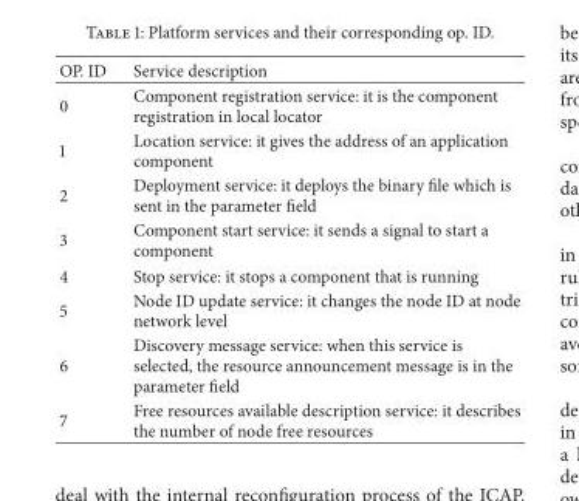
<table><thead><tr><td>OP. ID</td><td>Service description</td></tr></thead><tbody><tr><td>0</td><td>Component registration service: it is the component registration in local locator</td></tr><tr><td>1</td><td>Location service: it gives the address of an application component</td></tr><tr><td>2</td><td>Deployment service: it deploys the binary file which is sent in the parameter field</td></tr><tr><td>3</td><td>Component start service: it sends a signal to start a component</td></tr><tr><td>4</td><td>Stop service: it stops a component that is running</td></tr><tr><td>5</td><td>Node ID update service: it changes the node ID at node network level</td></tr><tr><td>6</td><td>Discovery message service: when this service is selected, the resource announcement message is in the parameter field</td></tr><tr><td>7</td><td>Free resources available description service: it describes the number of node free resources</td></tr></tbody></table>